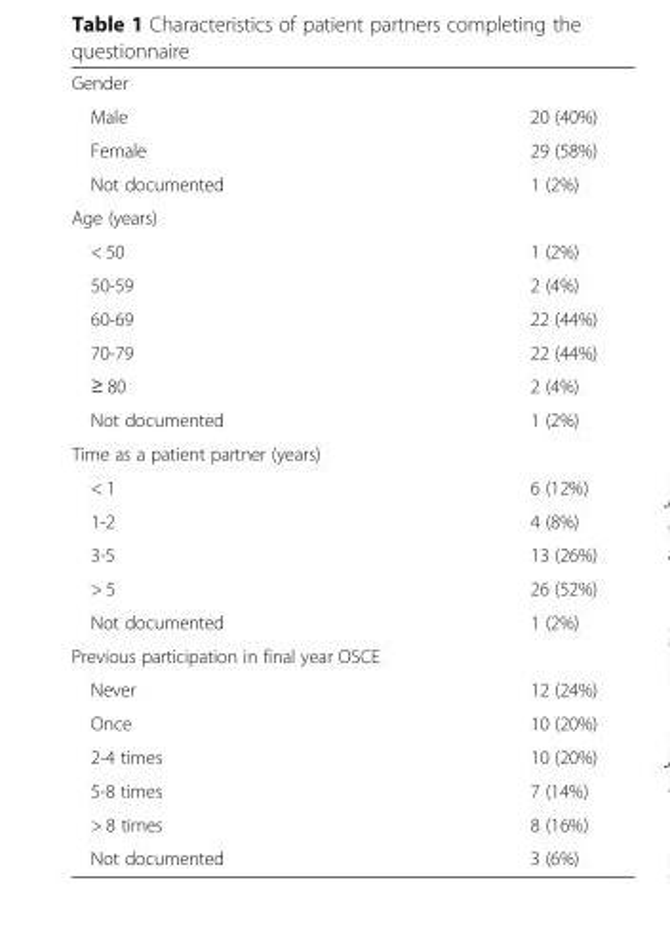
<table><tbody><tr><td colspan="2">Gender</td></tr><tr><td>Male</td><td>20 (40%)</td></tr><tr><td>Female</td><td>29 (58%)</td></tr><tr><td>Not documented</td><td>1 (2%)</td></tr><tr><td colspan="2">Age (years)</td></tr><tr><td>&lt; 50</td><td>1 (2%)</td></tr><tr><td>50-59</td><td>2 (4%)</td></tr><tr><td>60-69</td><td>22 (44%)</td></tr><tr><td>70-79</td><td>22 (44%)</td></tr><tr><td>≥ 80</td><td>2 (4%)</td></tr><tr><td>Not documented</td><td>1 (2%)</td></tr><tr><td colspan="2">Time as a patient partner (years)</td></tr><tr><td>&lt; 1</td><td>6 (12%)</td></tr><tr><td>1-2</td><td>4 (8%)</td></tr><tr><td>3-5</td><td>13 (26%)</td></tr><tr><td>&gt; 5</td><td>26 (52%)</td></tr><tr><td>Not documented</td><td>1 (2%)</td></tr><tr><td colspan="2">Previous participation in final year OSCE</td></tr><tr><td>Never</td><td>12 (24%)</td></tr><tr><td>Once</td><td>10 (20%)</td></tr><tr><td>2-4 times</td><td>10 (20%)</td></tr><tr><td>5-8 times</td><td>7 (14%)</td></tr><tr><td>&gt; 8 times</td><td>8 (16%)</td></tr><tr><td>Not documented</td><td>3 (6%)</td></tr></tbody></table>